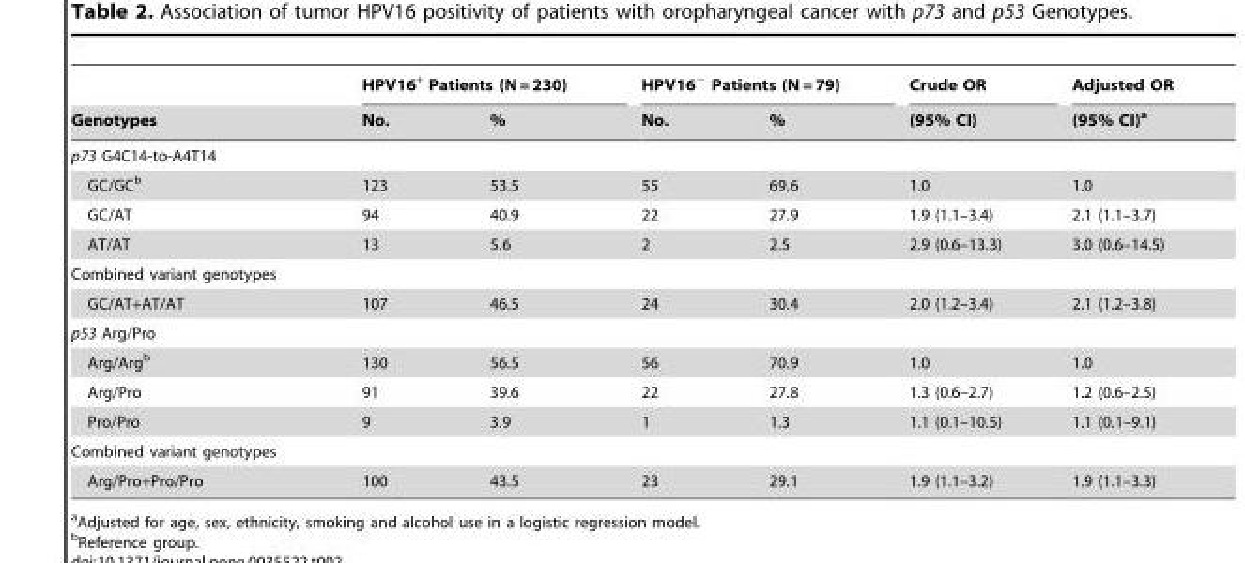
<table><thead><tr><td rowspan="2">Genotypes</td><td colspan="2">HPV16<sup>+</sup> Patients (N = 230)</td><td colspan="2">HPV16<sup>−</sup> Patients (N = 79)</td><td rowspan="2">Crude OR (95% CI)</td><td rowspan="2">Adjusted OR (95% CI)<sup>a</sup></td></tr><tr><td>No.</td><td>%</td><td>No.</td><td>%</td></tr></thead><tbody><tr><td colspan="7">p73 G4C14-to-A4T14</td></tr><tr><td>GC/GC<sup>b</sup></td><td>123</td><td>53.5</td><td>55</td><td>69.6</td><td>1.0</td><td>1.0</td></tr><tr><td>GC/AT</td><td>94</td><td>40.9</td><td>22</td><td>27.9</td><td>1.9 (1.1–3.4)</td><td>2.1 (1.1–3.7)</td></tr><tr><td>AT/AT</td><td>13</td><td>5.6</td><td>2</td><td>2.5</td><td>2.9 (0.6–13.3)</td><td>3.0 (0.6–14.5)</td></tr><tr><td colspan="7">Combined variant genotypes</td></tr><tr><td>GC/AT+AT/AT</td><td>107</td><td>46.5</td><td>24</td><td>30.4</td><td>2.0 (1.2–3.4)</td><td>2.1 (1.2–3.8)</td></tr><tr><td colspan="7">p53 Arg/Pro</td></tr><tr><td>Arg/Arg<sup>b</sup></td><td>130</td><td>56.5</td><td>56</td><td>70.9</td><td>1.0</td><td>1.0</td></tr><tr><td>Arg/Pro</td><td>91</td><td>39.6</td><td>22</td><td>27.8</td><td>1.3 (0.6–2.7)</td><td>1.2 (0.6–2.5)</td></tr><tr><td>Pro/Pro</td><td>9</td><td>3.9</td><td>1</td><td>1.3</td><td>1.1 (0.1–10.5)</td><td>1.1 (0.1–9.1)</td></tr><tr><td colspan="7">Combined variant genotypes</td></tr><tr><td>Arg/Pro+Pro/Pro</td><td>100</td><td>43.5</td><td>23</td><td>29.1</td><td>1.9 (1.1–3.2)</td><td>1.9 (1.1–3.3)</td></tr></tbody></table>